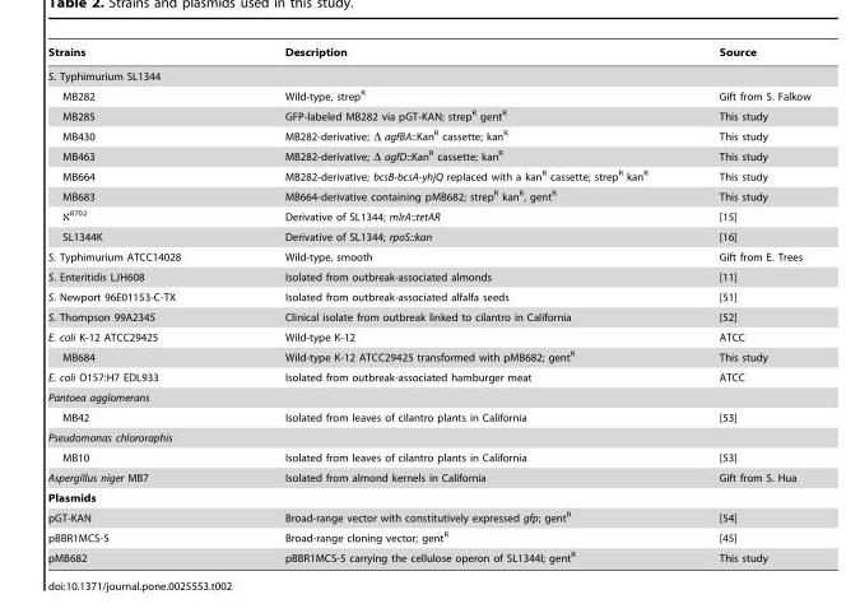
<table><thead><tr><td>Strains</td><td>Description</td><td>Source</td></tr></thead><tbody><tr><td colspan="3">S. Typhimurium SL1344</td></tr><tr><td>MB282</td><td>Wild-type, strep<sup>R</sup></td><td>Gift from S. Falkow</td></tr><tr><td>MB285</td><td>GFP-labeled MB282 via pGT-KAN; strep<sup>R</sup> gent<sup>R</sup></td><td>This study</td></tr><tr><td>MB430</td><td>MB282-derivative; Δ agfBA::Kan<sup>R</sup> cassette; kan<sup>R</sup></td><td>This study</td></tr><tr><td>MB463</td><td>MB282-derivative; Δ agfD::Kan<sup>R</sup> cassette; kan<sup>R</sup></td><td>This study</td></tr><tr><td>MB664</td><td>MB282-derivative; bcsB-bcsA-yhjQ replaced with a kan<sup>R</sup> cassette; strep<sup>R</sup> kan<sup>R</sup></td><td>This study</td></tr><tr><td>MB683</td><td>MB664-derivative containing pMB682; strep<sup>R</sup> kan<sup>R</sup>, gent<sup>R</sup></td><td>This study</td></tr><tr><td>:8702</td><td>Derivative of SL1344; mlrA::tetAR</td><td>[15]</td></tr><tr><td>SL1344K</td><td>Derivative of SL1344; rpoS::kan</td><td>[16]</td></tr><tr><td>S. Typhimurium ATCC14028</td><td>Wild-type, smooth</td><td>Gift from E. Trees</td></tr><tr><td>S. Enteritidis LJH608</td><td>Isolated from outbreak-associated almonds</td><td>[11]</td></tr><tr><td>S. Newport 96E01153-C-TX</td><td>Isolated from outbreak-associated alfalfa seeds</td><td>[51]</td></tr><tr><td>S. Thompson 99A2345</td><td>Clinical isolate from outbreak linked to cilantro in California</td><td>[52]</td></tr><tr><td>E. coli K-12 ATCC29425</td><td>Wild-type K-12</td><td>ATCC</td></tr><tr><td>MB684</td><td>Wild-type K-12 ATCC29425 transformed with pMB682; gent<sup>R</sup></td><td>This study</td></tr><tr><td>E. coli O157:H7 EDL933</td><td>Isolated from outbreak-associated hamburger meat</td><td>ATCC</td></tr><tr><td colspan="3">Pantoea agglomerans</td></tr><tr><td>MB42</td><td>Isolated from leaves of cilantro plants in California</td><td>[53]</td></tr><tr><td colspan="3">Pseudomonas chlororaphis</td></tr><tr><td>MB10</td><td>Isolated from leaves of cilantro plants in California</td><td>[53]</td></tr><tr><td>Aspergillus niger MB7</td><td>Isolated from almond kernels in California</td><td>Gift from S. Hua</td></tr><tr><td colspan="3">Plasmids</td></tr><tr><td>pGT-KAN</td><td>Broad-range vector with constitutively expressed gfp; gent<sup>R</sup></td><td>[54]</td></tr><tr><td>pBBR1MCS-5</td><td>Broad-range cloning vector; gent<sup>R</sup></td><td>[45]</td></tr><tr><td>pMB682</td><td>pBBR1MCS-5 carrying the cellulose operon of SL1344l; gent<sup>R</sup></td><td>This study</td></tr></tbody></table>